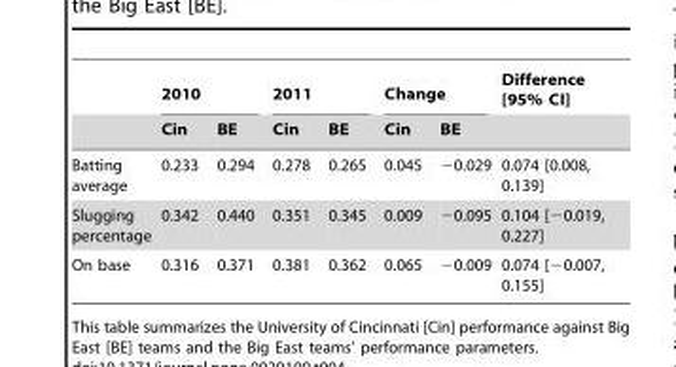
<table><thead><tr><td rowspan="2"></td><td colspan="2">2010</td><td colspan="2">2011</td><td colspan="2">Change</td><td rowspan="2">Difference [95% CI]</td></tr><tr><td>Cin</td><td>BE</td><td>Cin</td><td>BE</td><td>Cin</td><td>BE</td></tr></thead><tbody><tr><td>Batting average</td><td>0.233</td><td>0.294</td><td>0.278</td><td>0.265</td><td>0.045</td><td>−0.029</td><td>0.074 [0.008, 0.139]</td></tr><tr><td>Slugging percentage</td><td>0.342</td><td>0.440</td><td>0.351</td><td>0.345</td><td>0.009</td><td>−0.095</td><td>0.104 [−0.019, 0.227]</td></tr><tr><td>On base</td><td>0.316</td><td>0.371</td><td>0.381</td><td>0.362</td><td>0.065</td><td>−0.009</td><td>0.074 [−0.007, 0.155]</td></tr></tbody></table>